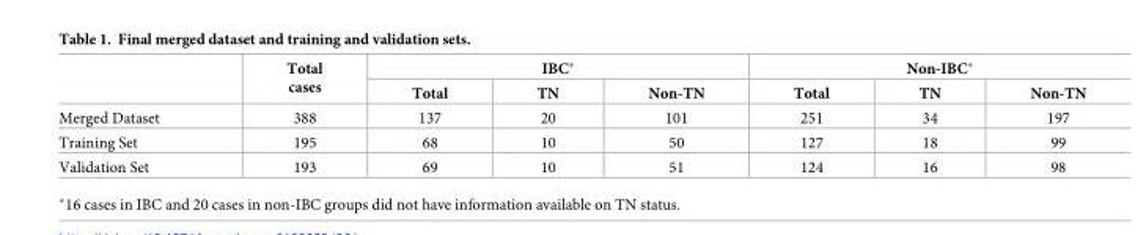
<table><thead><tr><td rowspan="2"></td><td rowspan="2">Total cases</td><td colspan="3">IBC*</td><td colspan="3">Non-IBC*</td></tr><tr><td>Total</td><td>TN</td><td>Non-TN</td><td>Total</td><td>TN</td><td>Non-TN</td></tr></thead><tbody><tr><td>Merged Dataset</td><td>388</td><td>137</td><td>20</td><td>101</td><td>251</td><td>34</td><td>197</td></tr><tr><td>Training Set</td><td>195</td><td>68</td><td>10</td><td>50</td><td>127</td><td>18</td><td>99</td></tr><tr><td>Validation Set</td><td>193</td><td>69</td><td>10</td><td>51</td><td>124</td><td>16</td><td>98</td></tr></tbody></table>